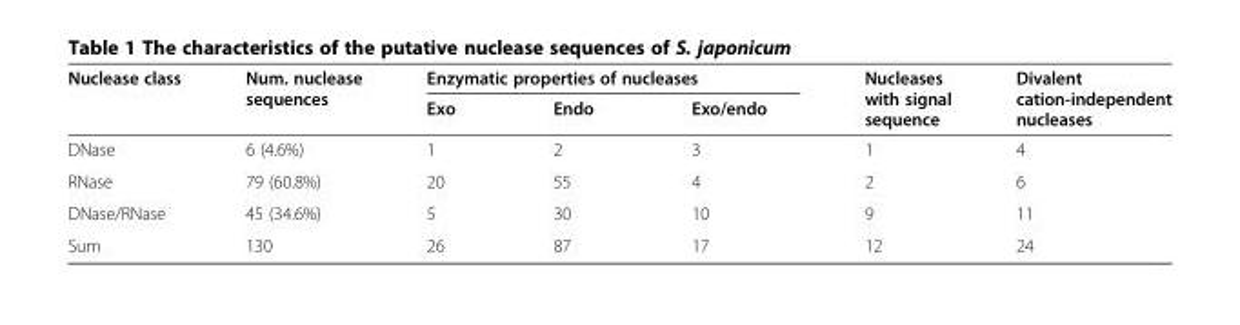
<table><thead><tr><td rowspan="2">Nuclease class</td><td rowspan="2">Num. nuclease sequences</td><td colspan="3">Enzymatic properties of nucleases</td><td rowspan="2">Nucleases with signal sequence</td><td rowspan="2">Divalent cation-independent nucleases</td></tr><tr><td>Exo</td><td>Endo</td><td>Exo/endo</td></tr></thead><tbody><tr><td>DNase</td><td>6 (4.6%)</td><td>1</td><td>2</td><td>3</td><td>1</td><td>4</td></tr><tr><td>RNase</td><td>79 (60.8%)</td><td>20</td><td>55</td><td>4</td><td>2</td><td>6</td></tr><tr><td>DNase/RNase</td><td>45 (34.6%)</td><td>5</td><td>30</td><td>10</td><td>9</td><td>11</td></tr><tr><td>Sum</td><td>130</td><td>26</td><td>87</td><td>17</td><td>12</td><td>24</td></tr></tbody></table>